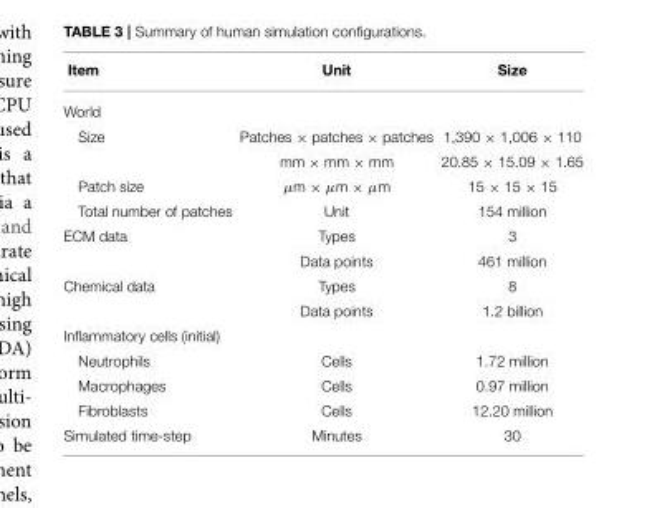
<table><thead><tr><td>Item</td><td>Unit</td><td>Size</td></tr></thead><tbody><tr><td colspan="3">World</td></tr><tr><td rowspan="2">Size</td><td>Patches × patches × patches</td><td>1,390 × 1,006 × 110</td></tr><tr><td>mm × mm × mm</td><td>20.85 × 15.09 × 1.65</td></tr><tr><td>Patch size</td><td>µm × µm × µm</td><td>15 × 15 × 15</td></tr><tr><td>Total number of patches</td><td>Unit</td><td>154 million</td></tr><tr><td rowspan="2">ECM data</td><td>Types</td><td>3</td></tr><tr><td>Data points</td><td>461 million</td></tr><tr><td rowspan="2">Chemical data</td><td>Types</td><td>8</td></tr><tr><td>Data points</td><td>1.2 billion</td></tr><tr><td colspan="3">Inflammatory cells (initial)</td></tr><tr><td>Neutrophils</td><td>Cells</td><td>1.72 million</td></tr><tr><td>Macrophages</td><td>Cells</td><td>0.97 million</td></tr><tr><td>Fibroblasts</td><td>Cells</td><td>12.20 million</td></tr><tr><td>Simulated time-step</td><td>Minutes</td><td>30</td></tr></tbody></table>